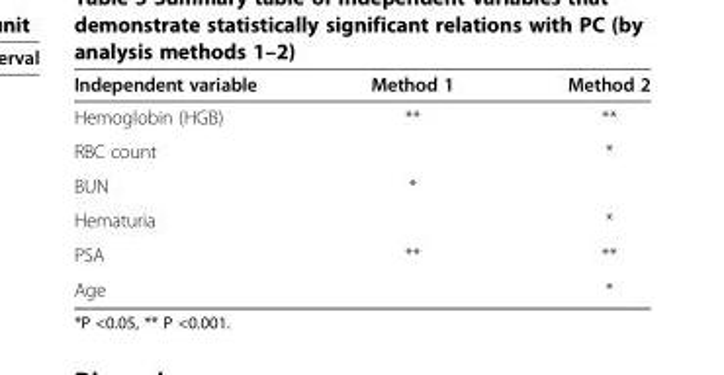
<table><thead><tr><td>Independent variable</td><td>Method 1</td><td>Method 2</td></tr></thead><tbody><tr><td>Hemoglobin (HGB)</td><td>**</td><td>**</td></tr><tr><td>RBC count</td><td></td><td>*</td></tr><tr><td>BUN</td><td>*</td><td></td></tr><tr><td>Hematuria</td><td></td><td>*</td></tr><tr><td>PSA</td><td>**</td><td>**</td></tr><tr><td>Age</td><td></td><td>*</td></tr></tbody></table>